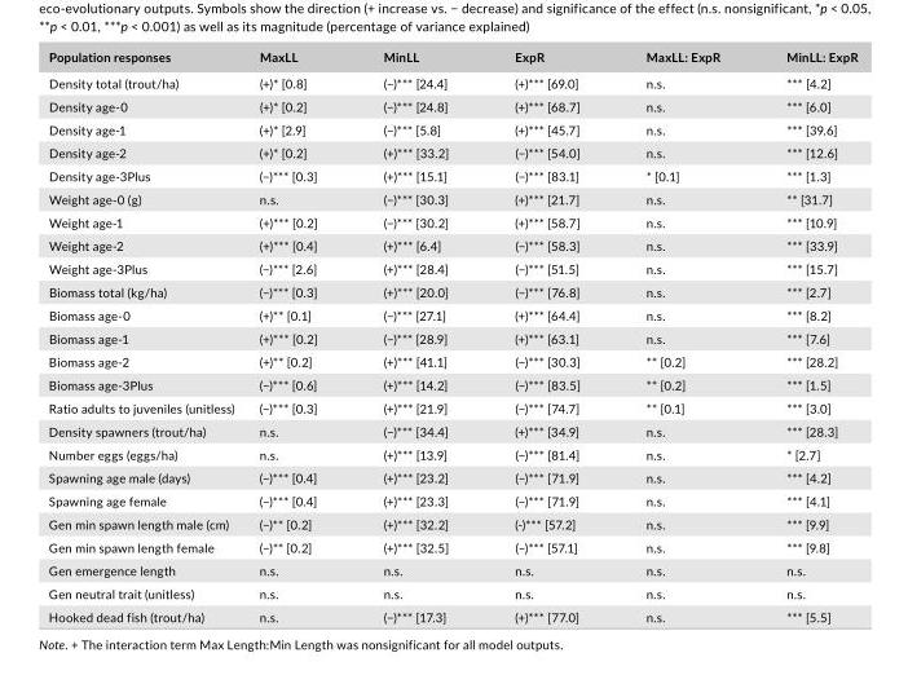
<table><thead><tr><td>Population responses</td><td>MaxLL</td><td>MinLL</td><td>ExpR</td><td>MaxLL: ExpR</td><td>MinLL: ExpR</td></tr></thead><tbody><tr><td>Density total (trout/ha)</td><td>(+)* [0.8]</td><td>(−)*** [24.4]</td><td>(+)*** [69.0]</td><td>n.s.</td><td>*** [4.2]</td></tr><tr><td>Density age- 0</td><td>(+)* [0.2]</td><td>(−)*** [24.8]</td><td>(+)*** [68.7]</td><td>n.s.</td><td>*** [6.0]</td></tr><tr><td>Density age- 1</td><td>(+)* [2.9]</td><td>(−)*** [5.8]</td><td>(+)*** [45.7]</td><td>n.s.</td><td>*** [39.6]</td></tr><tr><td>Density age- 2</td><td>(+)* [0.2]</td><td>(+)*** [33.2]</td><td>(−)*** [54.0]</td><td>n.s.</td><td>*** [12.6]</td></tr><tr><td>Density age- 3Plus</td><td>(−)*** [0.3]</td><td>(+)*** [15.1]</td><td>(−)*** [83.1]</td><td>* [0.1]</td><td>*** [1.3]</td></tr><tr><td>Weight age- 0 (g)</td><td>n.s.</td><td>(−)*** [30.3]</td><td>(+)*** [21.7]</td><td>n.s.</td><td>** [31.7]</td></tr><tr><td>Weight age- 1</td><td>(+)*** [0.2]</td><td>(−)*** [30.2]</td><td>(+)*** [58.7]</td><td>n.s.</td><td>*** [10.9]</td></tr><tr><td>Weight age- 2</td><td>(+)*** [0.4]</td><td>(+)*** [6.4]</td><td>(−)*** [58.3]</td><td>n.s.</td><td>*** [33.9]</td></tr><tr><td>Weight age- 3Plus</td><td>(−)*** [2.6]</td><td>(+)*** [28.4]</td><td>(−)*** [51.5]</td><td>n.s.</td><td>*** [15.7]</td></tr><tr><td>Biomass total (kg/ha)</td><td>(−)*** [0.3]</td><td>(+)*** [20.0]</td><td>(−)*** [76.8]</td><td>n.s.</td><td>*** [2.7]</td></tr><tr><td>Biomass age- 0</td><td>(+)** [0.1]</td><td>(−)*** [27.1]</td><td>(+)*** [64.4]</td><td>n.s.</td><td>*** [8.2]</td></tr><tr><td>Biomass age- 1</td><td>(+)*** [0.2]</td><td>(−)*** [28.9]</td><td>(+)*** [63.1]</td><td>n.s.</td><td>*** [7.6]</td></tr><tr><td>Biomass age- 2</td><td>(+)** [0.2]</td><td>(+)*** [41.1]</td><td>(−)*** [30.3]</td><td>** [0.2]</td><td>*** [28.2]</td></tr><tr><td>Biomass age- 3Plus</td><td>(−)*** [0.6]</td><td>(+)*** [14.2]</td><td>(−)*** [83.5]</td><td>** [0.2]</td><td>*** [1.5]</td></tr><tr><td>Ratio adults to juveniles (unitless)</td><td>(−)*** [0.3]</td><td>(+)*** [21.9]</td><td>(−)*** [74.7]</td><td>** [0.1]</td><td>*** [3.0]</td></tr><tr><td>Density spawners (trout/ha)</td><td>n.s.</td><td>(−)*** [34.4]</td><td>(+)*** [34.9]</td><td>n.s.</td><td>*** [28.3]</td></tr><tr><td>Number eggs (eggs/ha)</td><td>n.s.</td><td>(+)*** [13.9]</td><td>(−)*** [81.4]</td><td>n.s.</td><td>* [2.7]</td></tr><tr><td>Spawning age male (days)</td><td>(−)*** [0.4]</td><td>(+)*** [23.2]</td><td>(−)*** [71.9]</td><td>n.s.</td><td>*** [4.2]</td></tr><tr><td>Spawning age female</td><td>(−)*** [0.4]</td><td>(+)*** [23.3]</td><td>(−)*** [71.9]</td><td>n.s.</td><td>*** [4.1]</td></tr><tr><td>Gen min spawn length male (cm)</td><td>(−)** [0.2]</td><td>(+)*** [32.2]</td><td>(- )*** [57.2]</td><td>n.s.</td><td>*** [9.9]</td></tr><tr><td>Gen min spawn length female</td><td>(−)** [0.2]</td><td>(+)*** [32.5]</td><td>(−)*** [57.1]</td><td>n.s.</td><td>*** [9.8]</td></tr><tr><td>Gen emergence length</td><td>n.s.</td><td>n.s.</td><td>n.s.</td><td>n.s.</td><td>n.s.</td></tr><tr><td>Gen neutral trait (unitless)</td><td>n.s.</td><td>n.s.</td><td>n.s.</td><td>n.s.</td><td>n.s.</td></tr><tr><td>Hooked dead fish (trout/ha)</td><td>n.s.</td><td>(−)*** [17.3]</td><td>(+)*** [77.0]</td><td>n.s.</td><td>*** [5.5]</td></tr></tbody></table>